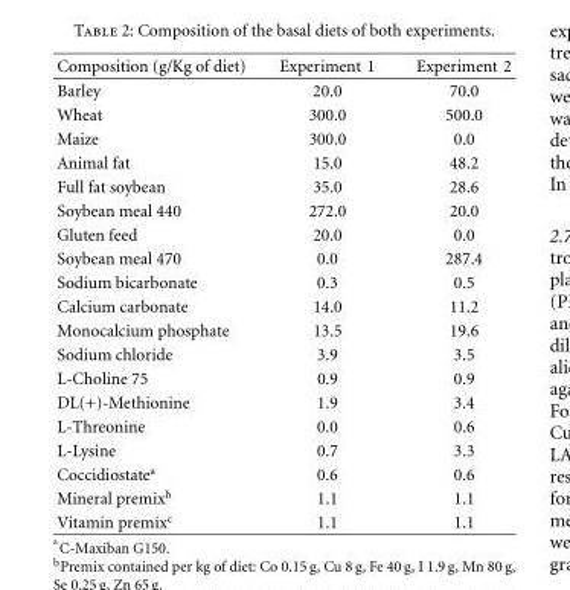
<table><thead><tr><td>Composition (g/Kg of diet)</td><td>Experiment 1</td><td>Experiment 2</td></tr></thead><tbody><tr><td>Barley</td><td>20.0</td><td>70.0</td></tr><tr><td>Wheat</td><td>300.0</td><td>500.0</td></tr><tr><td>Maize</td><td>300.0</td><td>0.0</td></tr><tr><td>Animal fat</td><td>15.0</td><td>48.2</td></tr><tr><td>Full fat soybean</td><td>35.0</td><td>28.6</td></tr><tr><td>Soybean meal 440</td><td>272.0</td><td>20.0</td></tr><tr><td>Gluten feed</td><td>20.0</td><td>0.0</td></tr><tr><td>Soybean meal 470</td><td>0.0</td><td>287.4</td></tr><tr><td>Sodium bicarbonate</td><td>0.3</td><td>0.5</td></tr><tr><td>Calcium carbonate</td><td>14.0</td><td>11.2</td></tr><tr><td>Monocalcium phosphate</td><td>13.5</td><td>19.6</td></tr><tr><td>Sodium chloride</td><td>3.9</td><td>3.5</td></tr><tr><td>L-Choline 75</td><td>0.9</td><td>0.9</td></tr><tr><td>DL(+)-Methionine</td><td>1.9</td><td>3.4</td></tr><tr><td>L-Threonine</td><td>0.0</td><td>0.6</td></tr><tr><td>L-Lysine</td><td>0.7</td><td>3.3</td></tr><tr><td>Coccidiostate<sup>a</sup></td><td>0.6</td><td>0.6</td></tr><tr><td>Mineral premix<sup>b</sup></td><td>1.1</td><td>1.1</td></tr><tr><td>Vitamin premix<sup>c</sup></td><td>1.1</td><td>1.1</td></tr></tbody></table>